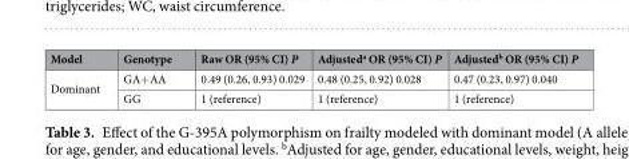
<table><thead><tr><td>Model</td><td>Genotype</td><td>Raw OR (95% CI) P</td><td>Adjusted<sup>a</sup> OR (95% CI) P</td><td>Adjusted<sup>b</sup> OR (95% CI) P</td></tr></thead><tbody><tr><td rowspan="2">Dominant</td><td>GA+AA</td><td>0.49 (0.26, 0.93) 0.029</td><td>0.48 (0.25, 0.92) 0.028</td><td>0.47 (0.23, 0.97) 0.040</td></tr><tr><td>GG</td><td>1 (reference)</td><td>1 (reference)</td><td>1 (reference)</td></tr></tbody></table>